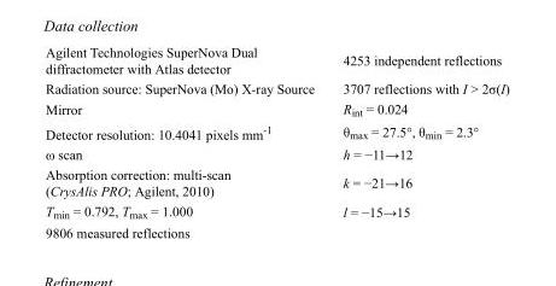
<table><tbody><tr><td>Agilent Technologies SuperNova Dual diffractometer with Atlas detector</td><td>4253 independent reflections</td></tr><tr><td>Radiation source: SuperNova (Mo) X-ray Source</td><td>3707 reflections with I &gt; 2σ(I)</td></tr><tr><td>Mirror</td><td>R<sub>int</sub> = 0.024</td></tr><tr><td>Detector resolution: 10.4041 pixels mm<sup>-1</sup></td><td>θ<sub>max</sub> = 27.5°, θ<sub>min</sub> = 2.3°</td></tr><tr><td>ω scan</td><td>h = −11→12</td></tr><tr><td>Absorption correction: multi-scan (CrysAlis PRO; Agilent, 2010)</td><td>k = −21→16</td></tr><tr><td>T<sub>min</sub> = 0.792, T<sub>max</sub> = 1.000</td><td>l = −15→15</td></tr><tr><td>9806 measured reflections</td><td></td></tr></tbody></table>